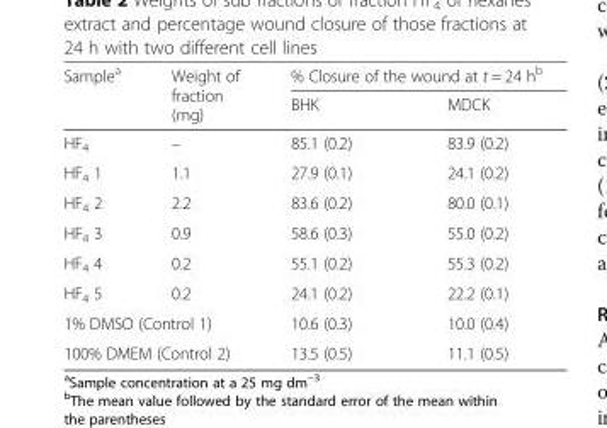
<table><thead><tr><td rowspan="2">Sample<sup>a</sup></td><td rowspan="2">Weight of fraction (mg)</td><td colspan="2">% Closure of the wound at t = 24 h<sup>b</sup></td></tr><tr><td>BHK</td><td>MDCK</td></tr></thead><tbody><tr><td>HF<sub>4</sub></td><td>–</td><td>85.1 (0.2)</td><td>83.9 (0.2)</td></tr><tr><td>HF<sub>4</sub> 1</td><td>1.1</td><td>27.9 (0.1)</td><td>24.1 (0.2)</td></tr><tr><td>HF<sub>4</sub> 2</td><td>2.2</td><td>83.6 (0.2)</td><td>80.0 (0.1)</td></tr><tr><td>HF<sub>4</sub> 3</td><td>0.9</td><td>58.6 (0.3)</td><td>55.0 (0.2)</td></tr><tr><td>HF<sub>4</sub> 4</td><td>0.2</td><td>55.1 (0.2)</td><td>55.3 (0.2)</td></tr><tr><td>HF<sub>4</sub> 5</td><td>0.2</td><td>24.1 (0.2)</td><td>22.2 (0.1)</td></tr><tr><td colspan="2">1% DMSO (Control 1)</td><td>10.6 (0.3)</td><td>10.0 (0.4)</td></tr><tr><td colspan="2">100% DMEM (Control 2)</td><td>13.5 (0.5)</td><td>11.1 (0.5)</td></tr></tbody></table>